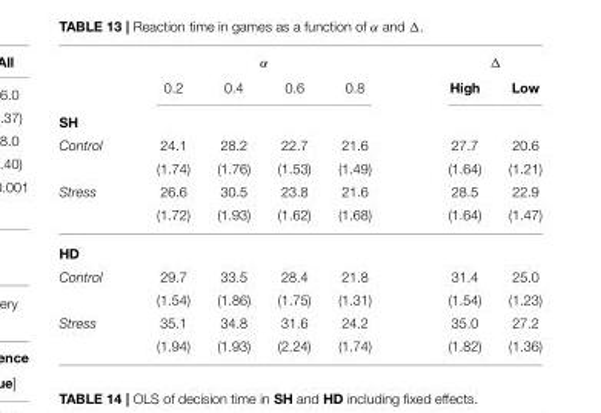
<table><thead><tr><td rowspan="2"></td><td colspan="4">α</td><td colspan="2">Δ</td></tr><tr><td>0.2</td><td>0.4</td><td>0.6</td><td>0.8</td><td>High</td><td>Low</td></tr></thead><tbody><tr><td colspan="7">SH</td></tr><tr><td rowspan="2">Control</td><td>24.1</td><td>28.2</td><td>22.7</td><td>21.6</td><td>27.7</td><td>20.6</td></tr><tr><td>(1.74)</td><td>(1.76)</td><td>(1.53)</td><td>(1.49)</td><td>(1.64)</td><td>(1.21)</td></tr><tr><td rowspan="2">Stress</td><td>26.6</td><td>30.5</td><td>23.8</td><td>21.6</td><td>28.5</td><td>22.9</td></tr><tr><td>(1.72)</td><td>(1.93)</td><td>(1.62)</td><td>(1.68)</td><td>(1.64)</td><td>(1.47)</td></tr><tr><td colspan="7">HD</td></tr><tr><td rowspan="2">Control</td><td>29.7</td><td>33.5</td><td>28.4</td><td>21.8</td><td>31.4</td><td>25.0</td></tr><tr><td>(1.54)</td><td>(1.86)</td><td>(1.75)</td><td>(1.31)</td><td>(1.54)</td><td>(1.23)</td></tr><tr><td rowspan="2">Stress</td><td>35.1</td><td>34.8</td><td>31.6</td><td>24.2</td><td>35.0</td><td>27.2</td></tr><tr><td>(1.94)</td><td>(1.93)</td><td>(2.24)</td><td>(1.74)</td><td>(1.82)</td><td>(1.36)</td></tr></tbody></table>